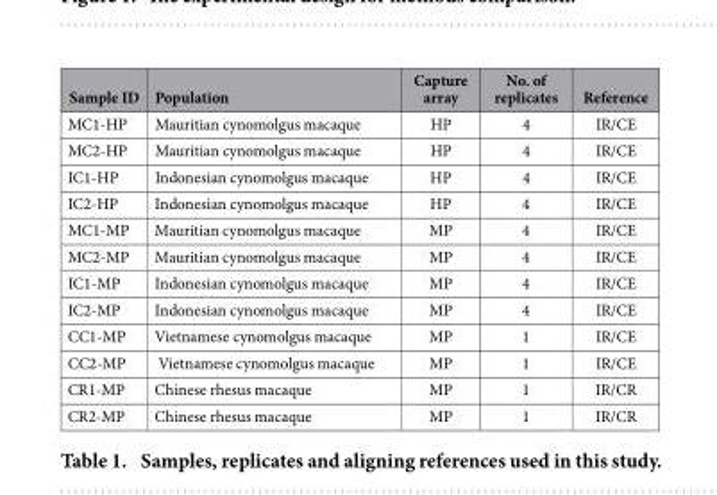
<table><thead><tr><td>Sample ID</td><td>Population</td><td>Capture array</td><td>No. of replicates</td><td>Reference</td></tr></thead><tbody><tr><td>MC1-HP</td><td>Mauritian cynomolgus macaque</td><td>HP</td><td>4</td><td>IR/CE</td></tr><tr><td>MC2-HP</td><td>Mauritian cynomolgus macaque</td><td>HP</td><td>4</td><td>IR/CE</td></tr><tr><td>IC1-HP</td><td>Indonesian cynomolgus macaque</td><td>HP</td><td>4</td><td>IR/CE</td></tr><tr><td>IC2-HP</td><td>Indonesian cynomolgus macaque</td><td>HP</td><td>4</td><td>IR/CE</td></tr><tr><td>MC1-MP</td><td>Mauritian cynomolgus macaque</td><td>MP</td><td>4</td><td>IR/CE</td></tr><tr><td>MC2-MP</td><td>Mauritian cynomolgus macaque</td><td>MP</td><td>4</td><td>IR/CE</td></tr><tr><td>IC1-MP</td><td>Indonesian cynomolgus macaque</td><td>MP</td><td>4</td><td>IR/CE</td></tr><tr><td>IC2-MP</td><td>Indonesian cynomolgus macaque</td><td>MP</td><td>4</td><td>IR/CE</td></tr><tr><td>CC1-MP</td><td>Vietnamese cynomolgus macaque</td><td>MP</td><td>1</td><td>IR/CE</td></tr><tr><td>CC2-MP</td><td>Vietnamese cynomolgus macaque</td><td>MP</td><td>1</td><td>IR/CE</td></tr><tr><td>CR1-MP</td><td>Chinese rhesus macaque</td><td>MP</td><td>1</td><td>IR/CR</td></tr><tr><td>CR2-MP</td><td>Chinese rhesus macaque</td><td>MP</td><td>1</td><td>IR/CR</td></tr></tbody></table>